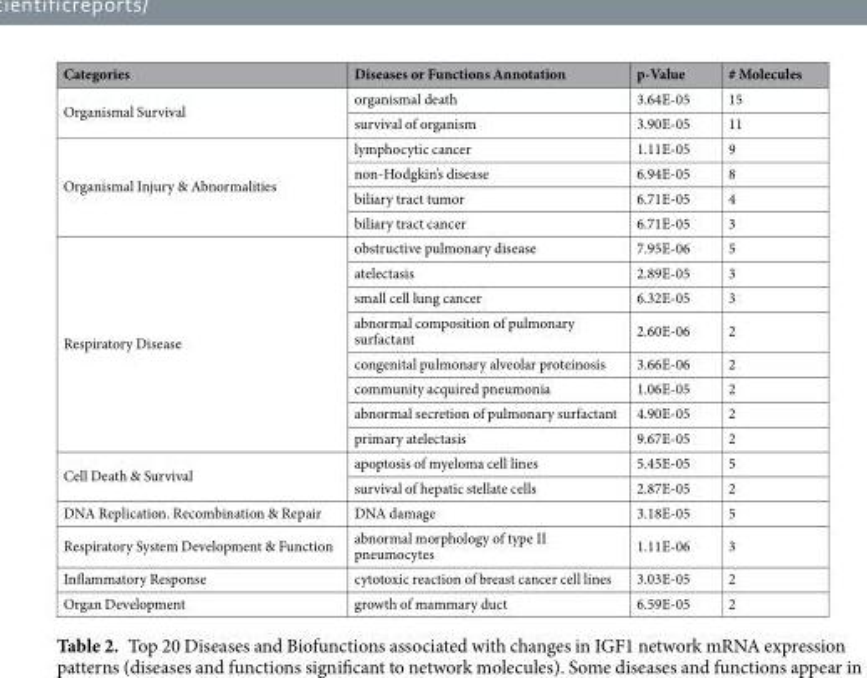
<table><thead><tr><td>Categories</td><td>Diseases or Functions Annotation</td><td>p-Value</td><td># Molecules</td></tr></thead><tbody><tr><td rowspan="2">Organismal Survival</td><td>organismal death</td><td>3.64E-05</td><td>15</td></tr><tr><td>survival of organism</td><td>3.90E-05</td><td>11</td></tr><tr><td rowspan="4">Organismal Injury &amp; Abnormalities</td><td>lymphocytic cancer</td><td>1.11E-05</td><td>9</td></tr><tr><td>non-Hodgkin’s disease</td><td>6.94E-05</td><td>8</td></tr><tr><td>biliary tract tumor</td><td>6.71E-05</td><td>4</td></tr><tr><td>biliary tract cancer</td><td>6.71E-05</td><td>3</td></tr><tr><td rowspan="8">Respiratory Disease</td><td>obstructive pulmonary disease</td><td>7.95E-06</td><td>5</td></tr><tr><td>atelectasis</td><td>2.89E-05</td><td>3</td></tr><tr><td>small cell lung cancer</td><td>6.32E-05</td><td>3</td></tr><tr><td>abnormal composition of pulmonary surfactant</td><td>2.60E-06</td><td>2</td></tr><tr><td>congenital pulmonary alveolar proteinosis</td><td>3.66E-06</td><td>2</td></tr><tr><td>community acquired pneumonia</td><td>1.06E-05</td><td>2</td></tr><tr><td>abnormal secretion of pulmonary surfactant</td><td>4.90E-05</td><td>2</td></tr><tr><td>primary atelectasis</td><td>9.67E-05</td><td>2</td></tr><tr><td rowspan="2">Cell Death &amp; Survival</td><td>apoptosis of myeloma cell lines</td><td>5.45E-05</td><td>5</td></tr><tr><td>survival of hepatic stellate cells</td><td>2.87E-05</td><td>2</td></tr><tr><td>DNA Replication. Recombination &amp; Repair</td><td>DNA damage</td><td>3.18E-05</td><td>5</td></tr><tr><td>Respiratory System Development &amp; Function</td><td>abnormal morphology of type II pneumocytes</td><td>1.11E-06</td><td>3</td></tr><tr><td>Inflammatory Response</td><td>cytotoxic reaction of breast cancer cell lines</td><td>3.03E-05</td><td>2</td></tr><tr><td>Organ Development</td><td>growth of mammary duct</td><td>6.59E-05</td><td>2</td></tr></tbody></table>